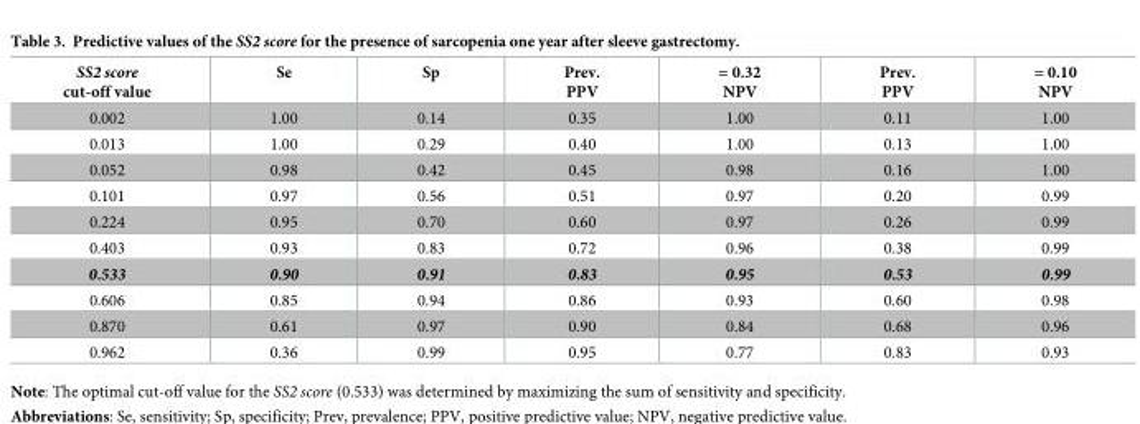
<table><thead><tr><td>SS2 score cut-off value</td><td>Se</td><td>Sp</td><td>Prev. PPV</td><td>= 0.32 NPV</td><td>Prev. PPV</td><td>= 0.10 NPV</td></tr></thead><tbody><tr><td>0.002</td><td>1.00</td><td>0.14</td><td>0.35</td><td>1.00</td><td>0.11</td><td>1.00</td></tr><tr><td>0.013</td><td>1.00</td><td>0.29</td><td>0.40</td><td>1.00</td><td>0.13</td><td>1.00</td></tr><tr><td>0.052</td><td>0.98</td><td>0.42</td><td>0.45</td><td>0.98</td><td>0.16</td><td>1.00</td></tr><tr><td>0.101</td><td>0.97</td><td>0.56</td><td>0.51</td><td>0.97</td><td>0.20</td><td>0.99</td></tr><tr><td>0.224</td><td>0.95</td><td>0.70</td><td>0.60</td><td>0.97</td><td>0.26</td><td>0.99</td></tr><tr><td>0.403</td><td>0.93</td><td>0.83</td><td>0.72</td><td>0.96</td><td>0.38</td><td>0.99</td></tr><tr><td>0.533</td><td>0.90</td><td>0.91</td><td>0.83</td><td>0.95</td><td>0.53</td><td>0.99</td></tr><tr><td>0.606</td><td>0.85</td><td>0.94</td><td>0.86</td><td>0.93</td><td>0.60</td><td>0.98</td></tr><tr><td>0.870</td><td>0.61</td><td>0.97</td><td>0.90</td><td>0.84</td><td>0.68</td><td>0.96</td></tr><tr><td>0.962</td><td>0.36</td><td>0.99</td><td>0.95</td><td>0.77</td><td>0.83</td><td>0.93</td></tr></tbody></table>